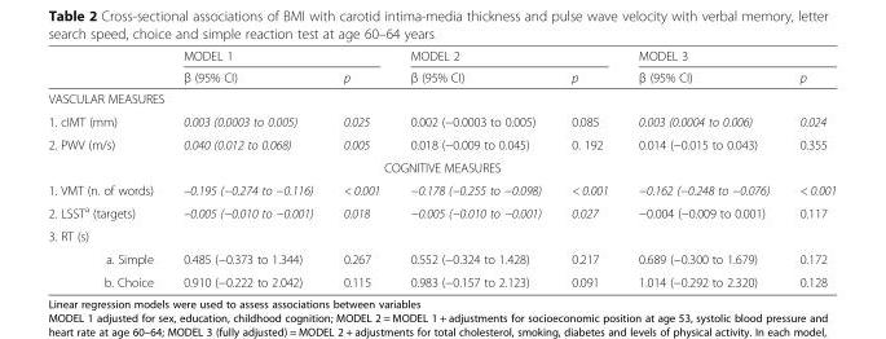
<table><thead><tr><td rowspan="2"></td><td colspan="2">MODEL 1</td><td colspan="2">MODEL 2</td><td colspan="2">MODEL 3</td></tr><tr><td>β (95% CI)</td><td>p</td><td>β (95% CI)</td><td>p</td><td>β (95% CI)</td><td>p</td></tr></thead><tbody><tr><td colspan="7">VASCULAR MEASURES</td></tr><tr><td>1. cIMT (mm)</td><td>0.003 (0.0003 to 0.005)</td><td>0.025</td><td>0.002 (−0.0003 to 0.005)</td><td>0.085</td><td>0.003 (0.0004 to 0.006)</td><td>0.024</td></tr><tr><td>2. PWV (m/s)</td><td>0.040 (0.012 to 0.068)</td><td>0.005</td><td>0.018 (−0.009 to 0.045)</td><td>0. 192</td><td>0.014 (−0.015 to 0.043)</td><td>0.355</td></tr><tr><td colspan="7">COGNITIVE MEASURES</td></tr><tr><td>1. VMT (n. of words)</td><td>–0.195 (−0.274 to −0.116)</td><td>&lt; 0.001</td><td>−0.178 (−0.255 to −0.098)</td><td>&lt; 0.001</td><td>−0.162 (−0.248 to −0.076)</td><td>&lt; 0.001</td></tr><tr><td>2. LSST<sup>a</sup> (targets)</td><td>–0.005 (−0.010 to −0.001)</td><td>0.018</td><td>−0.005 (−0.010 to −0.001)</td><td>0.027</td><td>−0.004 (−0.009 to 0.001)</td><td>0.117</td></tr><tr><td colspan="7">3. RT (s)</td></tr><tr><td>a. Simple</td><td>0.485 (−0.373 to 1.344)</td><td>0.267</td><td>0.552 (−0.324 to 1.428)</td><td>0.217</td><td>0.689 (−0.300 to 1.679)</td><td>0.172</td></tr><tr><td>b. Choice</td><td>0.910 (−0.222 to 2.042)</td><td>0.115</td><td>0.983 (−0.157 to 2.123)</td><td>0.091</td><td>1.014 (−0.292 to 2.320)</td><td>0.128</td></tr></tbody></table>